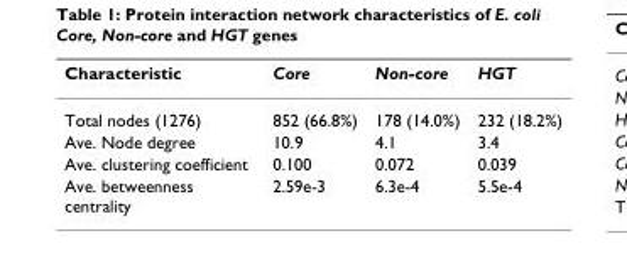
<table><thead><tr><td>Characteristic</td><td>Core</td><td>Non-core</td><td>HGT</td></tr></thead><tbody><tr><td>Total nodes (1276)</td><td>852 (66.8%)</td><td>178 (14.0%)</td><td>232 (18.2%)</td></tr><tr><td>Ave. Node degree</td><td>10.9</td><td>4.1</td><td>3.4</td></tr><tr><td>Ave. clustering coefficient</td><td>0.100</td><td>0.072</td><td>0.039</td></tr><tr><td>Ave. betweenness centrality</td><td>2.59e-3</td><td>6.3e-4</td><td>5.5e-4</td></tr></tbody></table>